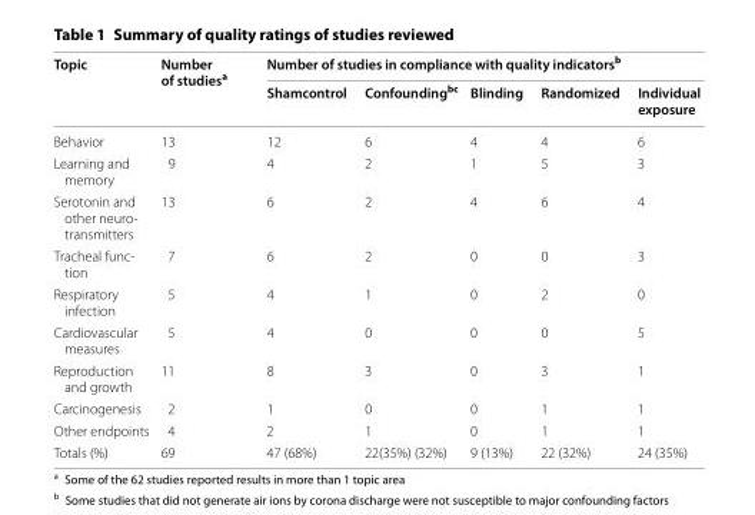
<table><thead><tr><td rowspan="2">Topic</td><td rowspan="2">Number of studies<sup>a</sup></td><td colspan="5">Number of studies in compliance with quality indicators<sup>b</sup></td></tr><tr><td>Shamcontrol</td><td>Confounding<sup>bc</sup></td><td>Blinding</td><td>Randomized</td><td>Individual exposure</td></tr></thead><tbody><tr><td>Behavior</td><td>13</td><td>12</td><td>6</td><td>4</td><td>4</td><td>6</td></tr><tr><td>Learning and memory</td><td>9</td><td>4</td><td>2</td><td>1</td><td>5</td><td>3</td></tr><tr><td>Serotonin and other neuro- transmitters</td><td>13</td><td>6</td><td>2</td><td>4</td><td>6</td><td>4</td></tr><tr><td>Tracheal func- tion</td><td>7</td><td>6</td><td>2</td><td>0</td><td>0</td><td>3</td></tr><tr><td>Respiratory infection</td><td>5</td><td>4</td><td>1</td><td>0</td><td>2</td><td>0</td></tr><tr><td>Cardiovascular measures</td><td>5</td><td>4</td><td>0</td><td>0</td><td>0</td><td>5</td></tr><tr><td>Reproduction and growth</td><td>11</td><td>8</td><td>3</td><td>0</td><td>3</td><td>1</td></tr><tr><td>Carcinogenesis</td><td>2</td><td>1</td><td>0</td><td>0</td><td>1</td><td>1</td></tr><tr><td>Other endpoints</td><td>4</td><td>2</td><td>1</td><td>0</td><td>1</td><td>1</td></tr><tr><td>Totals (%)</td><td>69</td><td>47 (68%)</td><td>22(35%) (32%)</td><td>9 (13%)</td><td>22 (32%)</td><td>24 (35%)</td></tr></tbody></table>